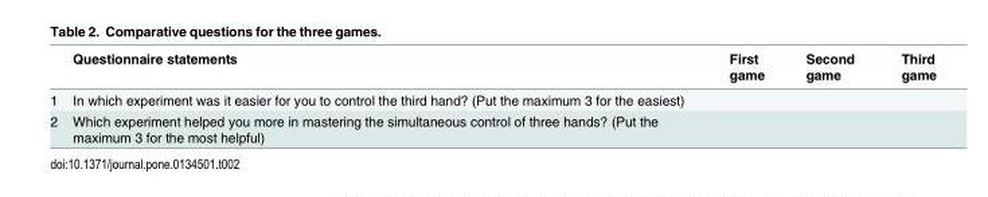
<table><thead><tr><td></td><td>Questionnaire statements</td><td>First game</td><td>Second game</td><td>Third game</td></tr></thead><tbody><tr><td>1</td><td>In which experiment was it easier for you to control the third hand? (Put the maximum 3 for the easiest)</td><td></td><td></td><td></td></tr><tr><td>2</td><td>Which experiment helped you more in mastering the simultaneous control of three hands? (Put the maximum 3 for the most helpful)</td><td></td><td></td><td></td></tr></tbody></table>